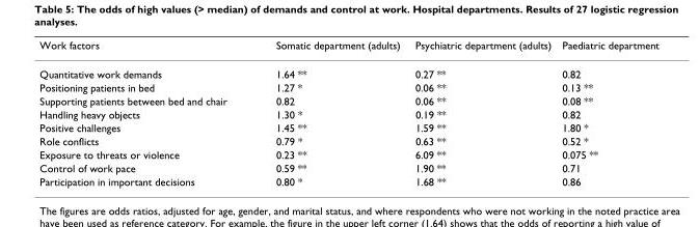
<table><thead><tr><td>Work factors</td><td>Somatic department (adults)</td><td>Psychiatric department (adults)</td><td>Paediatric department</td></tr></thead><tbody><tr><td>Quantitative work demands</td><td>1.64 **</td><td>0.27 **</td><td>0.82</td></tr><tr><td>Positioning patients in bed</td><td>1.27 *</td><td>0.06 **</td><td>0.13 **</td></tr><tr><td>Supporting patients between bed and chair</td><td>0.82</td><td>0.06 **</td><td>0.08 **</td></tr><tr><td>Handling heavy objects</td><td>1.30 *</td><td>0.19 **</td><td>0.82</td></tr><tr><td>Positive challenges</td><td>1.45 **</td><td>1.59 **</td><td>1.80 *</td></tr><tr><td>Role conflicts</td><td>0.79 *</td><td>0.63 **</td><td>0.52 *</td></tr><tr><td>Exposure to threats or violence</td><td>0.23 **</td><td>6.09 **</td><td>0.075 **</td></tr><tr><td>Control of work pace</td><td>0.59 **</td><td>1.90 **</td><td>0.71</td></tr><tr><td>Participation in important decisions</td><td>0.80 *</td><td>1.68 **</td><td>0.86</td></tr></tbody></table>